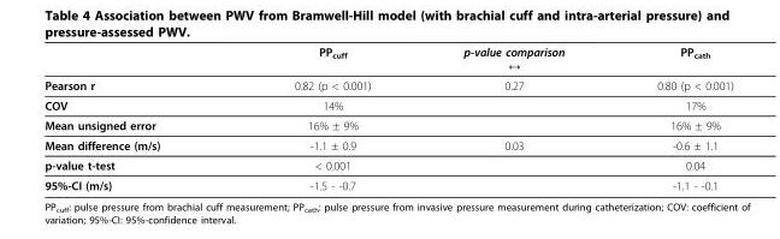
<table><thead><tr><td></td><td>PP<sub>cuff</sub></td><td>p-value comparison ↔</td><td>PP<sub>cath</sub></td></tr></thead><tbody><tr><td>Pearson r</td><td>0.82 (p &lt; 0.001)</td><td>0.27</td><td>0.80 (p &lt; 0.001)</td></tr><tr><td>COV</td><td>14%</td><td></td><td>17%</td></tr><tr><td>Mean unsigned error</td><td>16% ± 9%</td><td></td><td>16% ± 9%</td></tr><tr><td>Mean difference (m/s)</td><td>-1.1 ± 0.9</td><td>0.03</td><td>-0.6 ± 1.1</td></tr><tr><td>p-value t-test</td><td>&lt; 0.001</td><td></td><td>0.04</td></tr><tr><td>95%-CI (m/s)</td><td>-1.5 - -0.7</td><td></td><td>-1.1 - -0.1</td></tr></tbody></table>